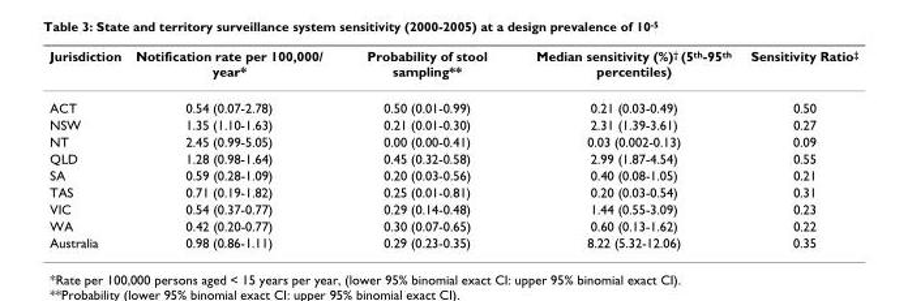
<table><thead><tr><td>Jurisdiction</td><td>Notification rate per 100,000/ year*</td><td>Probability of stool sampling**</td><td>Median sensitivity (%)<sup>†</sup> (5<sup>th</sup>-95<sup>th</sup> percentiles)</td><td>Sensitivity Ratio<sup>‡</sup></td></tr></thead><tbody><tr><td>ACT</td><td>0.54 (0.07-2.78)</td><td>0.50 (0.01-0.99)</td><td>0.21 (0.03-0.49)</td><td>0.50</td></tr><tr><td>NSW</td><td>1.35 (1.10-1.63)</td><td>0.21 (0.01-0.30)</td><td>2.31 (1.39-3.61)</td><td>0.27</td></tr><tr><td>NT</td><td>2.45 (0.99-5.05)</td><td>0.00 (0.00-0.41)</td><td>0.03 (0.002-0.13)</td><td>0.09</td></tr><tr><td>QLD</td><td>1.28 (0.98-1.64)</td><td>0.45 (0.32-0.58)</td><td>2.99 (1.87-4.54)</td><td>0.55</td></tr><tr><td>SA</td><td>0.59 (0.28-1.09)</td><td>0.20 (0.03-0.56)</td><td>0.40 (0.08-1.05)</td><td>0.21</td></tr><tr><td>TAS</td><td>0.71 (0.19-1.82)</td><td>0.25 (0.01-0.81)</td><td>0.20 (0.03-0.54)</td><td>0.31</td></tr><tr><td>VIC</td><td>0.54 (0.37-0.77)</td><td>0.29 (0.14-0.48)</td><td>1.44 (0.55-3.09)</td><td>0.23</td></tr><tr><td>WA</td><td>0.42 (0.20-0.77)</td><td>0.30 (0.07-0.65)</td><td>0.60 (0.13-1.62)</td><td>0.22</td></tr><tr><td>Australia</td><td>0.98 (0.86-1.11)</td><td>0.29 (0.23-0.35)</td><td>8.22 (5.32-12.06)</td><td>0.35</td></tr></tbody></table>